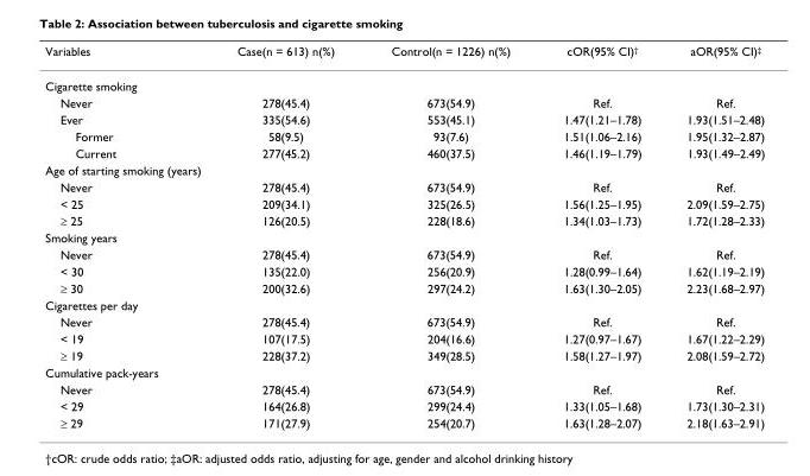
<table><thead><tr><td>Variables</td><td>Case(n = 613) n(%)</td><td>Control(n = 1226) n(%)</td><td>cOR(95% CI)<sup>†</sup></td><td>aOR(95% CI)<sup>‡</sup></td></tr></thead><tbody><tr><td colspan="5">Cigarette smoking</td></tr><tr><td>Never</td><td>278(45.4)</td><td>673(54.9)</td><td>Ref.</td><td>Ref.</td></tr><tr><td>Ever</td><td>335(54.6)</td><td>553(45.1)</td><td>1.47(1.21–1.78)</td><td>1.93(1.51–2.48)</td></tr><tr><td>Former</td><td>58(9.5)</td><td>93(7.6)</td><td>1.51(1.06–2.16)</td><td>1.95(1.32–2.87)</td></tr><tr><td>Current</td><td>277(45.2)</td><td>460(37.5)</td><td>1.46(1.19–1.79)</td><td>1.93(1.49–2.49)</td></tr><tr><td colspan="5">Age of starting smoking (years)</td></tr><tr><td>Never</td><td>278(45.4)</td><td>673(54.9)</td><td>Ref.</td><td>Ref.</td></tr><tr><td>&lt; 25</td><td>209(34.1)</td><td>325(26.5)</td><td>1.56(1.25–1.95)</td><td>2.09(1.59–2.75)</td></tr><tr><td>≥ 25</td><td>126(20.5)</td><td>228(18.6)</td><td>1.34(1.03–1.73)</td><td>1.72(1.28–2.33)</td></tr><tr><td colspan="5">Smoking years</td></tr><tr><td>Never</td><td>278(45.4)</td><td>673(54.9)</td><td>Ref.</td><td>Ref.</td></tr><tr><td>&lt; 30</td><td>135(22.0)</td><td>256(20.9)</td><td>1.28(0.99–1.64)</td><td>1.62(1.19–2.19)</td></tr><tr><td>≥ 30</td><td>200(32.6)</td><td>297(24.2)</td><td>1.63(1.30–2.05)</td><td>2.23(1.68–2.97)</td></tr><tr><td colspan="5">Cigarettes per day</td></tr><tr><td>Never</td><td>278(45.4)</td><td>673(54.9)</td><td>Ref.</td><td>Ref.</td></tr><tr><td>&lt; 19</td><td>107(17.5)</td><td>204(16.6)</td><td>1.27(0.97–1.67)</td><td>1.67(1.22–2.29)</td></tr><tr><td>≥ 19</td><td>228(37.2)</td><td>349(28.5)</td><td>1.58(1.27–1.97)</td><td>2.08(1.59–2.72)</td></tr><tr><td colspan="5">Cumulative pack-years</td></tr><tr><td>Never</td><td>278(45.4)</td><td>673(54.9)</td><td>Ref.</td><td>Ref.</td></tr><tr><td>&lt; 29</td><td>164(26.8)</td><td>299(24.4)</td><td>1.33(1.05–1.68)</td><td>1.73(1.30–2.31)</td></tr><tr><td>≥ 29</td><td>171(27.9)</td><td>254(20.7)</td><td>1.63(1.28–2.07)</td><td>2.18(1.63–2.91)</td></tr></tbody></table>